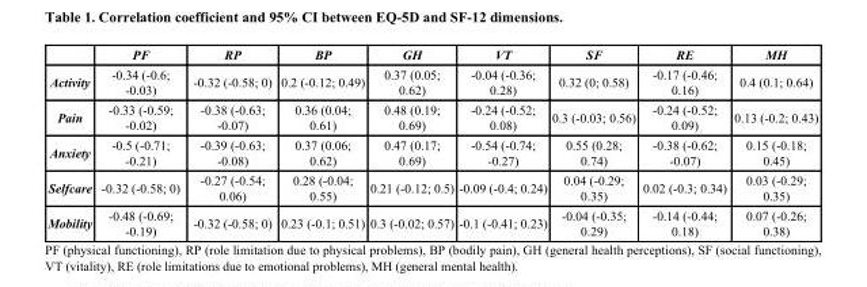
<table><thead><tr><td></td><td>PF</td><td>RP</td><td>BP</td><td>GH</td><td>VT</td><td>SF</td><td>RE</td><td>MH</td></tr></thead><tbody><tr><td>Activity</td><td>-0.34 (-0.6; -0.03)</td><td>-0.32 (-0.58; 0)</td><td>0.2 (-0.12; 0.49)</td><td>0.37 (0.05; 0.62)</td><td>-0.04 (-0.36; 0.28)</td><td>0.32 (0; 0.58)</td><td>-0.17 (-0.46; 0.16)</td><td>0.4 (0.1; 0.64)</td></tr><tr><td>Pain</td><td>-0.33 (-0.59; -0.02)</td><td>-0.38 (-0.63; -0.07)</td><td>0.36 (0.04; 0.61)</td><td>0.48 (0.19; 0.69)</td><td>-0.24 (-0.52; 0.08)</td><td>0.3 (-0.03; 0.56)</td><td>-0.24 (-0.52; 0.09)</td><td>0.13 (-0.2; 0.43)</td></tr><tr><td>Anxiety</td><td>-0.5 (-0.71; -0.21)</td><td>-0.39 (-0.63; -0.08)</td><td>0.37 (0.06; 0.62)</td><td>0.47 (0.17; 0.69)</td><td>-0.54 (-0.74; -0.27)</td><td>0.55 (0.28; 0.74)</td><td>-0.38 (-0.62; -0.07)</td><td>0.15 (-0.18; 0.45)</td></tr><tr><td>Selfcare</td><td>-0.32 (-0.58; 0)</td><td>-0.27 (-0.54; 0.06)</td><td>0.28 (-0.04; 0.55)</td><td>0.21 (-0.12; 0.5)</td><td>-0.09 (-0.4; 0.24)</td><td>0.04 (-0.29; 0.35)</td><td>0.02 (-0.3; 0.34)</td><td>0.03 (-0.29; 0.35)</td></tr><tr><td>Mobility</td><td>-0.48 (-0.69; -0.19)</td><td>-0.32 (-0.58; 0)</td><td>0.23 (-0.1; 0.51)</td><td>0.3 (-0.02; 0.57)</td><td>-0.1 (-0.41; 0.23)</td><td>-0.04 (-0.35; 0.29)</td><td>-0.14 (-0.44; 0.18)</td><td>0.07 (-0.26; 0.38)</td></tr></tbody></table>